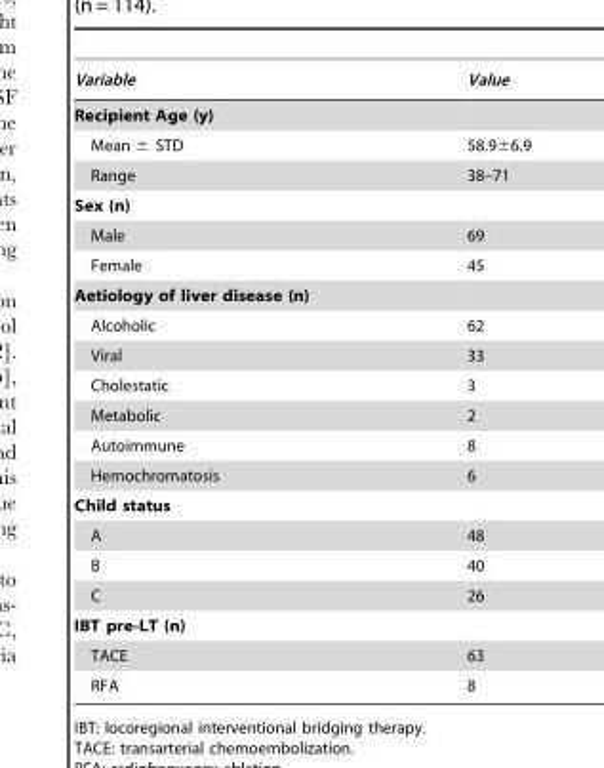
<table><thead><tr><td>Variable</td><td>Value</td></tr></thead><tbody><tr><td colspan="2">Recipient Age (y)</td></tr><tr><td>Mean ± STD</td><td>58.9±6.9</td></tr><tr><td>Range</td><td>38–71</td></tr><tr><td colspan="2">Sex (n)</td></tr><tr><td>Male</td><td>69</td></tr><tr><td>Female</td><td>45</td></tr><tr><td colspan="2">Aetiology of liver disease (n)</td></tr><tr><td>Alcoholic</td><td>62</td></tr><tr><td>Viral</td><td>33</td></tr><tr><td>Cholestatic</td><td>3</td></tr><tr><td>Metabolic</td><td>2</td></tr><tr><td>Autoimmune</td><td>8</td></tr><tr><td>Hemochromatosis</td><td>6</td></tr><tr><td colspan="2">Child status</td></tr><tr><td>A</td><td>48</td></tr><tr><td>B</td><td>40</td></tr><tr><td>C</td><td>26</td></tr><tr><td colspan="2">IBT pre-LT (n)</td></tr><tr><td>TACE</td><td>63</td></tr><tr><td>RFA</td><td>8</td></tr></tbody></table>